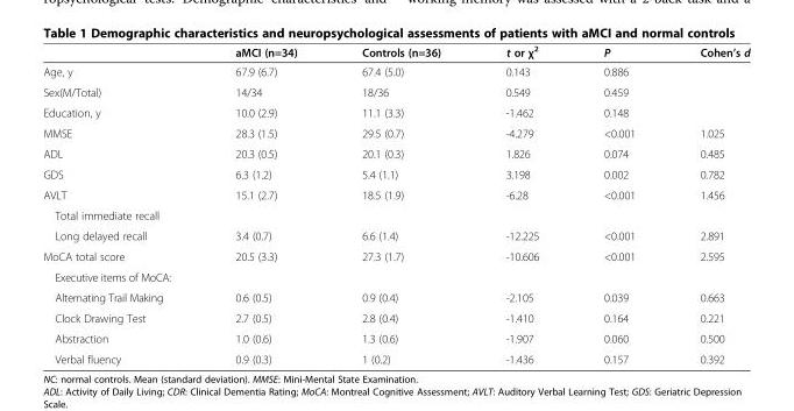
<table><thead><tr><td></td><td>aMCI (n=34)</td><td>Controls (n=36)</td><td>t or χ<sup>2</sup></td><td>P</td><td>Cohen’s d</td></tr></thead><tbody><tr><td>Age, y</td><td>67.9 (6.7)</td><td>67.4 (5.0)</td><td>0.143</td><td>0.886</td><td></td></tr><tr><td>Sex(M/Total)</td><td>14/34</td><td>18/36</td><td>0.549</td><td>0.459</td><td></td></tr><tr><td>Education, y</td><td>10.0 (2.9)</td><td>11.1 (3.3)</td><td>-1.462</td><td>0.148</td><td></td></tr><tr><td>MMSE</td><td>28.3 (1.5)</td><td>29.5 (0.7)</td><td>-4.279</td><td>&lt;0.001</td><td>1.025</td></tr><tr><td>ADL</td><td>20.3 (0.5)</td><td>20.1 (0.3)</td><td>1.826</td><td>0.074</td><td>0.485</td></tr><tr><td>GDS</td><td>6.3 (1.2)</td><td>5.4 (1.1)</td><td>3.198</td><td>0.002</td><td>0.782</td></tr><tr><td>AVLT</td><td rowspan="2">15.1 (2.7)</td><td rowspan="2">18.5 (1.9)</td><td rowspan="2">-6.28</td><td rowspan="2">&lt;0.001</td><td rowspan="2">1.456</td></tr><tr><td>Total immediate recall</td></tr><tr><td>Long delayed recall</td><td>3.4 (0.7)</td><td>6.6 (1.4)</td><td>-12.225</td><td>&lt;0.001</td><td>2.891</td></tr><tr><td>MoCA total score</td><td>20.5 (3.3)</td><td>27.3 (1.7)</td><td>-10.606</td><td>&lt;0.001</td><td>2.595</td></tr><tr><td colspan="6">Executive items of MoCA:</td></tr><tr><td>Alternating Trail Making</td><td>0.6 (0.5)</td><td>0.9 (0.4)</td><td>-2.105</td><td>0.039</td><td>0.663</td></tr><tr><td>Clock Drawing Test</td><td>2.7 (0.5)</td><td>2.8 (0.4)</td><td>-1.410</td><td>0.164</td><td>0.221</td></tr><tr><td>Abstraction</td><td>1.0 (0.6)</td><td>1.3 (0.6)</td><td>-1.907</td><td>0.060</td><td>0.500</td></tr><tr><td>Verbal fluency</td><td>0.9 (0.3)</td><td>1 (0.2)</td><td>-1.436</td><td>0.157</td><td>0.392</td></tr></tbody></table>